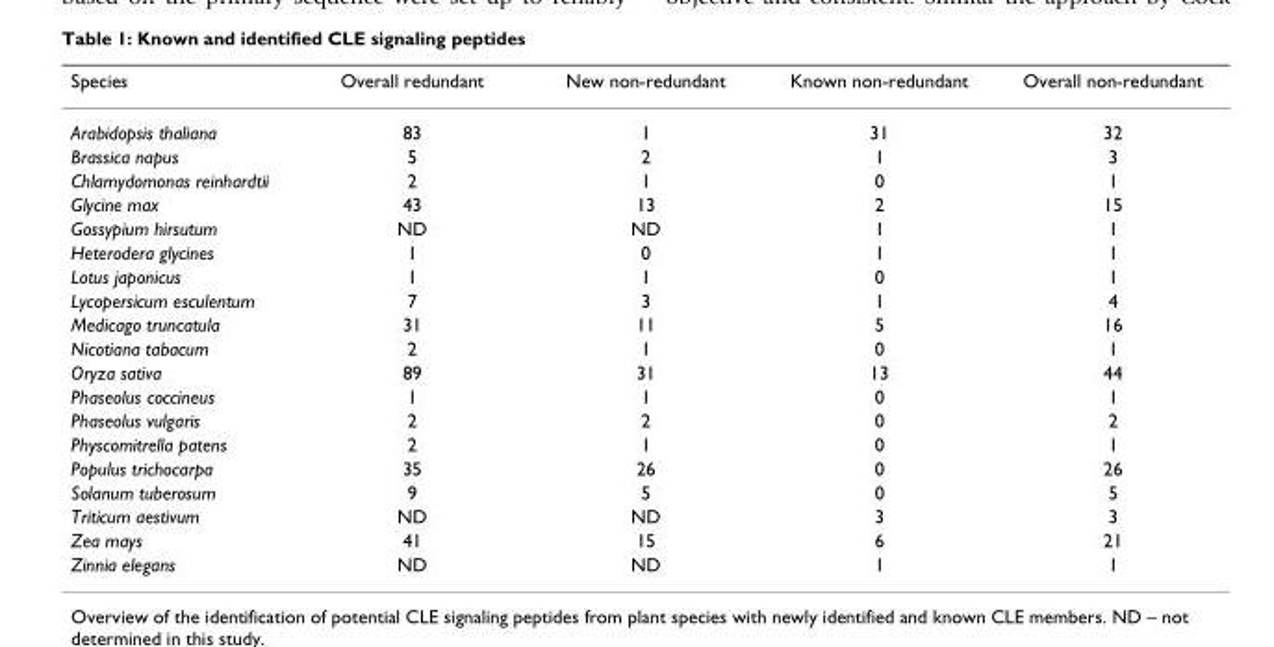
<table><thead><tr><td>Species</td><td>Overall redundant</td><td>New non-redundant</td><td>Known non-redundant</td><td>Overall non-redundant</td></tr></thead><tbody><tr><td>Arabidopsis thaliana</td><td>83</td><td>1</td><td>31</td><td>32</td></tr><tr><td>Brassica napus</td><td>5</td><td>2</td><td>1</td><td>3</td></tr><tr><td>Chlamydomonas reinhardtii</td><td>2</td><td>1</td><td>0</td><td>1</td></tr><tr><td>Glycine max</td><td>43</td><td>13</td><td>2</td><td>15</td></tr><tr><td>Gossypium hirsutum</td><td>ND</td><td>ND</td><td>1</td><td>1</td></tr><tr><td>Heterodera glycines</td><td>1</td><td>0</td><td>1</td><td>1</td></tr><tr><td>Lotus japonicus</td><td>1</td><td>1</td><td>0</td><td>1</td></tr><tr><td>Lycopersicum esculentum</td><td>7</td><td>3</td><td>1</td><td>4</td></tr><tr><td>Medicago truncatula</td><td>31</td><td>11</td><td>5</td><td>16</td></tr><tr><td>Nicotiana tabacum</td><td>2</td><td>1</td><td>0</td><td>1</td></tr><tr><td>Oryza sativa</td><td>89</td><td>31</td><td>13</td><td>44</td></tr><tr><td>Phaseolus coccineus</td><td>1</td><td>1</td><td>0</td><td>1</td></tr><tr><td>Phaseolus vulgaris</td><td>2</td><td>2</td><td>0</td><td>2</td></tr><tr><td>Physcomitrella patens</td><td>2</td><td>1</td><td>0</td><td>1</td></tr><tr><td>Populus trichocarpa</td><td>35</td><td>26</td><td>0</td><td>26</td></tr><tr><td>Solanum tuberosum</td><td>9</td><td>5</td><td>0</td><td>5</td></tr><tr><td>Triticum aestivum</td><td>ND</td><td>ND</td><td>3</td><td>3</td></tr><tr><td>Zea mays</td><td>41</td><td>15</td><td>6</td><td>21</td></tr><tr><td>Zinnia elegans</td><td>ND</td><td>ND</td><td>1</td><td>1</td></tr></tbody></table>